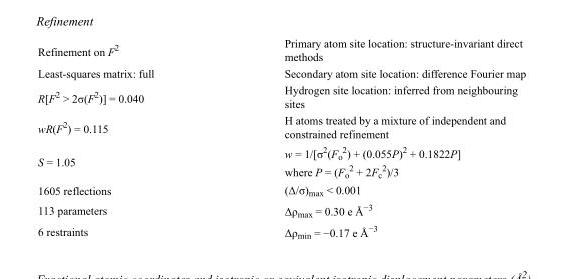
<table><tbody><tr><td>Refinement on F<sup>2</sup></td><td>Primary atom site location: structure-invariant direct methods</td></tr><tr><td>Least-squares matrix: full</td><td>Secondary atom site location: difference Fourier map</td></tr><tr><td>R[F<sup>2</sup> &gt; 2σ(F<sup>2</sup>)] = 0.040</td><td>Hydrogen site location: inferred from neighbouring sites</td></tr><tr><td>wR(F<sup>2</sup>) = 0.115</td><td>H atoms treated by a mixture of independent and constrained refinement</td></tr><tr><td>S = 1.05</td><td>w = 1/[σ<sup>2</sup>(F<sub>o</sub> <sup>2</sup>) + (0.055P)<sup>2</sup> + 0.1822P] where P = (F<sub>o</sub> <sup>2</sup> + 2F<sub>c</sub> <sup>2</sup>)/3</td></tr><tr><td>1605 reflections</td><td>(Δ/σ)<sub>max</sub> &lt; 0.001</td></tr><tr><td>113 parameters</td><td>Δρ<sub>max</sub> = 0.30 e Å<sup>−3</sup></td></tr><tr><td>6 restraints</td><td>Δρ<sub>min</sub> = −0.17 e Å<sup>−3</sup></td></tr></tbody></table>